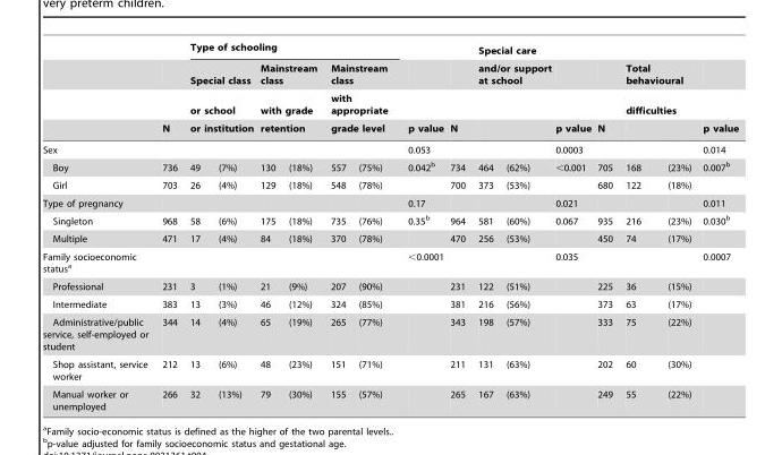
<table><thead><tr><td rowspan="5">Sex</td><td rowspan="5">N</td><td colspan="6">Type of schooling</td><td rowspan="5">p value 0.053</td><td rowspan="5">N</td><td rowspan="2" colspan="2">Special care and/or support at school</td><td rowspan="5">p value 0.0003</td><td rowspan="5">N</td><td></td><td></td><td rowspan="5">p value 0.014</td></tr><tr><td rowspan="3" colspan="2">Special class or school or institution</td><td rowspan="3" colspan="2">Mainstream class with grade retention</td><td rowspan="3" colspan="2">Mainstream class with appropriate grade level</td><td rowspan="2" colspan="2">Total behavioural difficulties</td></tr><tr><td rowspan="3"></td><td rowspan="3"></td></tr><tr><td rowspan="2"></td><td rowspan="2"></td></tr><tr><td></td><td></td><td></td><td></td><td></td><td></td></tr></thead><tbody><tr><td>Boy</td><td>736</td><td>49</td><td>(7%)</td><td>130</td><td>(18%)</td><td>557</td><td>(75%)</td><td>0.042<sup>b</sup></td><td>734</td><td>464</td><td>(62%)</td><td>&lt;0.001</td><td>705</td><td>168</td><td>(23%)</td><td>0.007<sup>b</sup></td></tr><tr><td>Girl</td><td>703</td><td>26</td><td>(4%)</td><td>129</td><td>(18%)</td><td>548</td><td>(78%)</td><td></td><td>700</td><td>373</td><td>(53%)</td><td></td><td>680</td><td>122</td><td>(18%)</td><td></td></tr><tr><td>Type of pregnancy</td><td></td><td></td><td></td><td></td><td></td><td></td><td></td><td>0.17</td><td></td><td></td><td></td><td>0.021</td><td></td><td></td><td></td><td>0.011</td></tr><tr><td>Singleton</td><td>968</td><td>58</td><td>(6%)</td><td>175</td><td>(18%)</td><td>735</td><td>(76%)</td><td>0.35<sup>b</sup></td><td>964</td><td>581</td><td>(60%)</td><td>0.067</td><td>935</td><td>216</td><td>(23%)</td><td>0.030<sup>b</sup></td></tr><tr><td>Multiple</td><td>471</td><td>17</td><td>(4%)</td><td>84</td><td>(18%)</td><td>370</td><td>(78%)</td><td></td><td>470</td><td>256</td><td>(53%)</td><td></td><td>450</td><td>74</td><td>(17%)</td><td></td></tr><tr><td>Family socioeconomic status<sup>a</sup></td><td></td><td></td><td></td><td></td><td></td><td></td><td></td><td>&lt;0.0001</td><td></td><td></td><td></td><td>0.035</td><td></td><td></td><td></td><td>0.0007</td></tr><tr><td>Professional</td><td>231</td><td>3</td><td>(1%)</td><td>21</td><td>(9%)</td><td>207</td><td>(90%)</td><td></td><td>231</td><td>122</td><td>(51%)</td><td></td><td>225</td><td>36</td><td>(15%)</td><td></td></tr><tr><td>Intermediate</td><td>383</td><td>13</td><td>(3%)</td><td>46</td><td>(12%)</td><td>324</td><td>(85%)</td><td></td><td>381</td><td>216</td><td>(56%)</td><td></td><td>373</td><td>63</td><td>(17%)</td><td></td></tr><tr><td>Administrative/public service, self-employed or student</td><td>344</td><td>14</td><td>(4%)</td><td>65</td><td>(19%)</td><td>265</td><td>(77%)</td><td></td><td>343</td><td>198</td><td>(57%)</td><td></td><td>333</td><td>75</td><td>(22%)</td><td></td></tr><tr><td>Shop assistant, service worker</td><td>212</td><td>13</td><td>(6%)</td><td>48</td><td>(23%)</td><td>151</td><td>(71%)</td><td></td><td>211</td><td>131</td><td>(63%)</td><td></td><td>202</td><td>60</td><td>(30%)</td><td></td></tr><tr><td>Manual worker or unemployed</td><td>266</td><td>32</td><td>(13%)</td><td>79</td><td>(30%)</td><td>155</td><td>(57%)</td><td></td><td>265</td><td>167</td><td>(63%)</td><td></td><td>249</td><td>55</td><td>(22%)</td><td></td></tr></tbody></table>